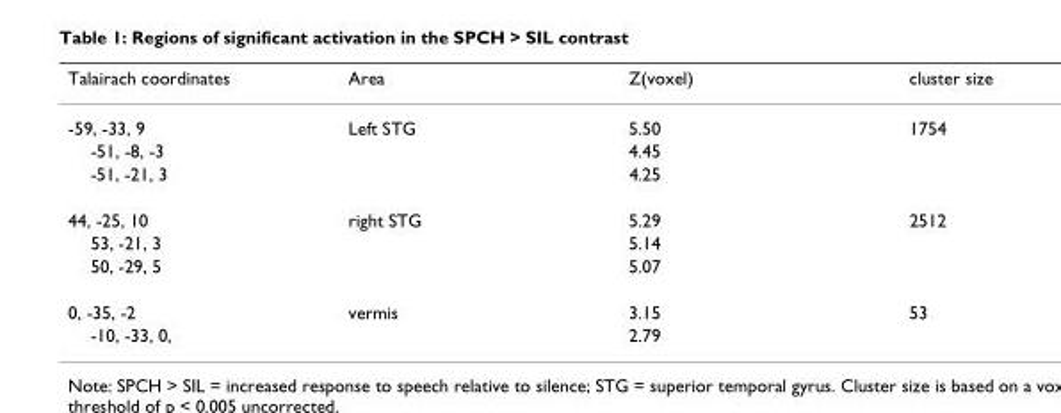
<table><thead><tr><td>Talairach coordinates</td><td>Area</td><td>Z(voxel)</td><td>cluster size</td></tr></thead><tbody><tr><td>-59, -33, 9</td><td>Left STG</td><td>5.50</td><td>1754</td></tr><tr><td>-51, -8, -3</td><td></td><td>4.45</td><td></td></tr><tr><td>-51, -21, 3</td><td></td><td>4.25</td><td></td></tr><tr><td>44, -25, 10</td><td>right STG</td><td>5.29</td><td>2512</td></tr><tr><td>53, -21, 3</td><td></td><td>5.14</td><td></td></tr><tr><td>50, -29, 5</td><td></td><td>5.07</td><td></td></tr><tr><td>0, -35, -2</td><td>vermis</td><td>3.15</td><td>53</td></tr><tr><td>-10, -33, 0,</td><td></td><td>2.79</td><td></td></tr></tbody></table>